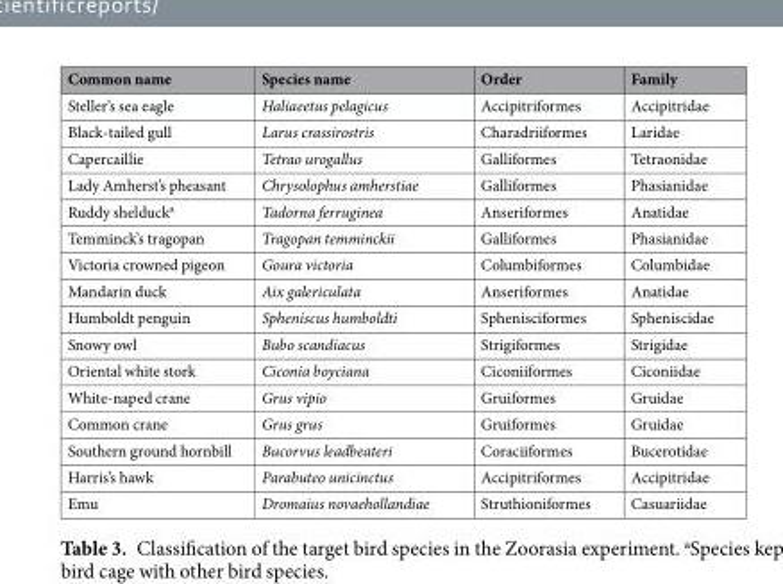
<table><thead><tr><td>Common name</td><td>Species name</td><td>Order</td><td>Family</td></tr></thead><tbody><tr><td>Steller’s sea eagle</td><td>Haliaeetus pelagicus</td><td>Accipitriformes</td><td>Accipitridae</td></tr><tr><td>Black-tailed gull</td><td>Larus crassirostris</td><td>Charadriiformes</td><td>Laridae</td></tr><tr><td>Capercaillie</td><td>Tetrao urogallus</td><td>Galliformes</td><td>Tetraonidae</td></tr><tr><td>Lady Amherst’s pheasant</td><td>Chrysolophus amherstiae</td><td>Galliformes</td><td>Phasianidae</td></tr><tr><td>Ruddy shelduck<sup>a</sup></td><td>Tadorna ferruginea</td><td>Anseriformes</td><td>Anatidae</td></tr><tr><td>Temminck’s tragopan</td><td>Tragopan temminckii</td><td>Galliformes</td><td>Phasianidae</td></tr><tr><td>Victoria crowned pigeon</td><td>Goura victoria</td><td>Columbiformes</td><td>Columbidae</td></tr><tr><td>Mandarin duck</td><td>Aix galericulata</td><td>Anseriformes</td><td>Anatidae</td></tr><tr><td>Humboldt penguin</td><td>Spheniscus humboldti</td><td>Sphenisciformes</td><td>Spheniscidae</td></tr><tr><td>Snowy owl</td><td>Bubo scandiacus</td><td>Strigiformes</td><td>Strigidae</td></tr><tr><td>Oriental white stork</td><td>Ciconia boyciana</td><td>Ciconiiformes</td><td>Ciconiidae</td></tr><tr><td>White-naped crane</td><td>Grus vipio</td><td>Gruiformes</td><td>Gruidae</td></tr><tr><td>Common crane</td><td>Grus grus</td><td>Gruiformes</td><td>Gruidae</td></tr><tr><td>Southern ground hornbill</td><td>Bucorvus leadbeateri</td><td>Coraciiformes</td><td>Bucerotidae</td></tr><tr><td>Harris’s hawk</td><td>Parabuteo unicinctus</td><td>Accipitriformes</td><td>Accipitridae</td></tr><tr><td>Emu</td><td>Dromaius novaehollandiae</td><td>Struthioniformes</td><td>Casuariidae</td></tr></tbody></table>